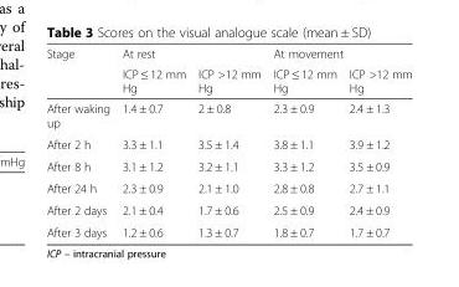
<table><thead><tr><td rowspan="2">Stage</td><td colspan="2">At rest</td><td colspan="2">At movement</td></tr><tr><td>ICP ≤ 12 mm Hg</td><td>ICP &gt;12 mm Hg</td><td>ICP ≤ 12 mm Hg</td><td>ICP &gt;12 mm Hg</td></tr></thead><tbody><tr><td>After waking up</td><td>1.4 ± 0.7</td><td>2 ± 0.8</td><td>2.3 ± 0.9</td><td>2.4 ± 1.3</td></tr><tr><td>After 2 h</td><td>3.3 ± 1.1</td><td>3.5 ± 1.4</td><td>3.8 ± 1.1</td><td>3.9 ± 1.2</td></tr><tr><td>After 8 h</td><td>3.1 ± 1.2</td><td>3.2 ± 1.1</td><td>3.3 ± 1.2</td><td>3.5 ± 0.9</td></tr><tr><td>After 24 h</td><td>2.3 ± 0.9</td><td>2.1 ± 1.0</td><td>2.8 ± 0.8</td><td>2.7 ± 1.1</td></tr><tr><td>After 2 days</td><td>2.1 ± 0.4</td><td>1.7 ± 0.6</td><td>2.5 ± 0.9</td><td>2.4 ± 0.9</td></tr><tr><td>After 3 days</td><td>1.2 ± 0.6</td><td>1.3 ± 0.7</td><td>1.8 ± 0.7</td><td>1.7 ± 0.7</td></tr></tbody></table>